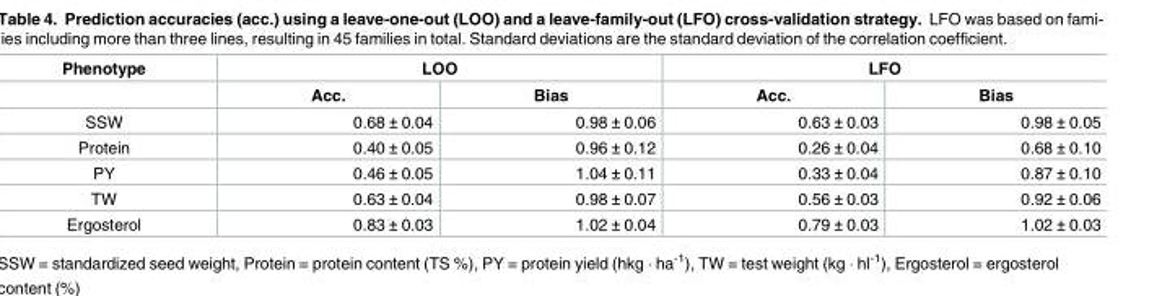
<table><thead><tr><td rowspan="2">Phenotype</td><td colspan="2">LOO</td><td colspan="2">LFO</td></tr><tr><td>Acc.</td><td>Bias</td><td>Acc.</td><td>Bias</td></tr></thead><tbody><tr><td>SSW</td><td>0.68 ± 0.04</td><td>0.98 ± 0.06</td><td>0.63 ± 0.03</td><td>0.98 ± 0.05</td></tr><tr><td>Protein</td><td>0.40 ± 0.05</td><td>0.96 ± 0.12</td><td>0.26 ± 0.04</td><td>0.68 ± 0.10</td></tr><tr><td>PY</td><td>0.46 ± 0.05</td><td>1.04 ± 0.11</td><td>0.33 ± 0.04</td><td>0.87 ± 0.10</td></tr><tr><td>TW</td><td>0.63 ± 0.04</td><td>0.98 ± 0.07</td><td>0.56 ± 0.03</td><td>0.92 ± 0.06</td></tr><tr><td>Ergosterol</td><td>0.83 ± 0.03</td><td>1.02 ± 0.04</td><td>0.79 ± 0.03</td><td>1.02 ± 0.03</td></tr></tbody></table>